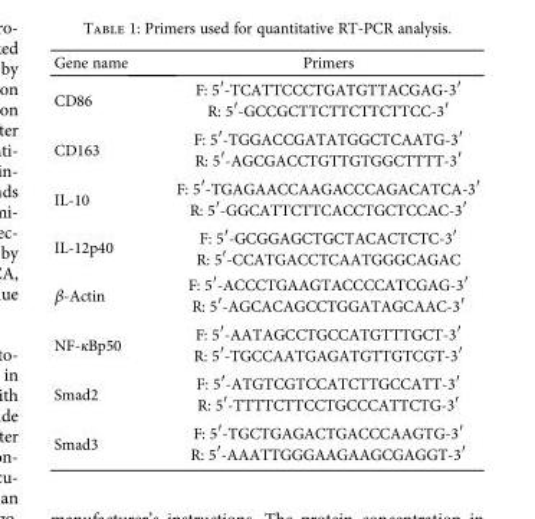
<table><thead><tr><td>Gene name</td><td>Primers</td></tr></thead><tbody><tr><td>CD86</td><td>F: 5′-TCATTCCCTGATGTTACGAG-3′ R: 5′-GCCGCTTCTTCTTCTTCC-3′</td></tr><tr><td>CD163</td><td>F: 5′-TGGACCGATATGGCTCAATG-3′ R: 5′-AGCGACCTGTTGTGGCTTTT-3′</td></tr><tr><td>IL-10</td><td>F: 5′-TGAGAACCAAGACCCAGACATCA-3′ R: 5′-GGCATTCTTCACCTGCTCCAC-3′</td></tr><tr><td>IL-12p40</td><td>F: 5′-GCGGAGCTGCTACACTCTC-3′ R: 5′-CCATGACCTCAATGGGCAGAC</td></tr><tr><td>β-Actin</td><td>F: 5′-ACCCTGAAGTACCCCATCGAG-3′ R: 5′-AGCACAGCCTGGATAGCAAC-3′</td></tr><tr><td>NF-κBp50</td><td>F: 5′-AATAGCCTGCCATGTTTGCT-3′ R: 5′-TGCCAATGAGATGTTGTCGT-3′</td></tr><tr><td>Smad2</td><td>F: 5′-ATGTCGTCCATCTTGCCATT-3′ R: 5′-TTTTCTTCCTGCCCATTCTG-3′</td></tr><tr><td>Smad3</td><td>F: 5′-TGCTGAGACTGACCCAAGTG-3′ R: 5′-AAATTGGGAAGAAGCGAGGT-3′</td></tr></tbody></table>